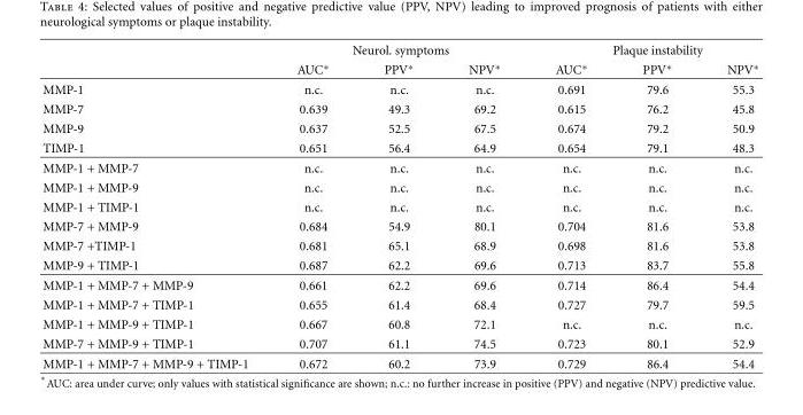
<table><thead><tr><td rowspan="2"></td><td colspan="3">Neurol. symptoms</td><td colspan="3">Plaque instability</td></tr><tr><td>AUC∗</td><td>PPV∗</td><td>NPV∗</td><td>AUC∗</td><td>PPV∗</td><td>NPV∗</td></tr></thead><tbody><tr><td>MMP-1</td><td>n.c.</td><td>n.c.</td><td>n.c.</td><td>0.691</td><td>79.6</td><td>55.3</td></tr><tr><td>MMP-7</td><td>0.639</td><td>49.3</td><td>69.2</td><td>0.615</td><td>76.2</td><td>45.8</td></tr><tr><td>MMP-9</td><td>0.637</td><td>52.5</td><td>67.5</td><td>0.674</td><td>79.2</td><td>50.9</td></tr><tr><td>TIMP-1</td><td>0.651</td><td>56.4</td><td>64.9</td><td>0.654</td><td>79.1</td><td>48.3</td></tr><tr><td>MMP-1 + MMP-7</td><td>n.c.</td><td>n.c.</td><td>n.c.</td><td>n.c.</td><td>n.c.</td><td>n.c.</td></tr><tr><td>MMP-1 + MMP-9</td><td>n.c.</td><td>n.c.</td><td>n.c.</td><td>n.c.</td><td>n.c.</td><td>n.c.</td></tr><tr><td>MMP-1 + TIMP-1</td><td>n.c.</td><td>n.c.</td><td>n.c.</td><td>n.c.</td><td>n.c.</td><td>n.c.</td></tr><tr><td>MMP-7 + MMP-9</td><td>0.684</td><td>54.9</td><td>80.1</td><td>0.704</td><td>81.6</td><td>53.8</td></tr><tr><td>MMP-7 +TIMP-1</td><td>0.681</td><td>65.1</td><td>68.9</td><td>0.698</td><td>81.6</td><td>53.8</td></tr><tr><td>MMP-9 + TIMP-1</td><td>0.687</td><td>62.2</td><td>69.6</td><td>0.713</td><td>83.7</td><td>55.8</td></tr><tr><td>MMP-1 + MMP-7 + MMP-9</td><td>0.661</td><td>62.2</td><td>69.6</td><td>0.714</td><td>86.4</td><td>54.4</td></tr><tr><td>MMP-1 + MMP-7 + TIMP-1</td><td>0.655</td><td>61.4</td><td>68.4</td><td>0.727</td><td>79.7</td><td>59.5</td></tr><tr><td>MMP-1 + MMP-9 + TIMP-1</td><td>0.667</td><td>60.8</td><td>72.1</td><td>n.c.</td><td>n.c.</td><td>n.c.</td></tr><tr><td>MMP-7 + MMP-9 + TIMP-1</td><td>0.707</td><td>61.1</td><td>74.5</td><td>0.723</td><td>80.1</td><td>52.9</td></tr><tr><td>MMP-1 + MMP-7 + MMP-9 + TIMP-1</td><td>0.672</td><td>60.2</td><td>73.9</td><td>0.729</td><td>86.4</td><td>54.4</td></tr></tbody></table>